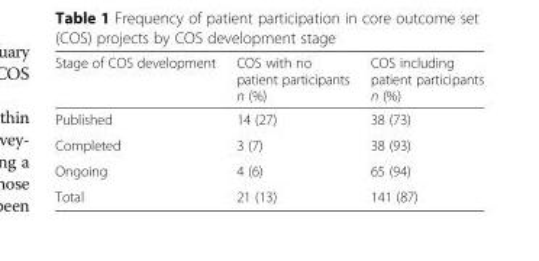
<table><thead><tr><td>Stage of COS development</td><td>COS with no patient participants n (%)</td><td>COS including patient participants n (%)</td></tr></thead><tbody><tr><td>Published</td><td>14 (27)</td><td>38 (73)</td></tr><tr><td>Completed</td><td>3 (7)</td><td>38 (93)</td></tr><tr><td>Ongoing</td><td>4 (6)</td><td>65 (94)</td></tr><tr><td>Total</td><td>21 (13)</td><td>141 (87)</td></tr></tbody></table>